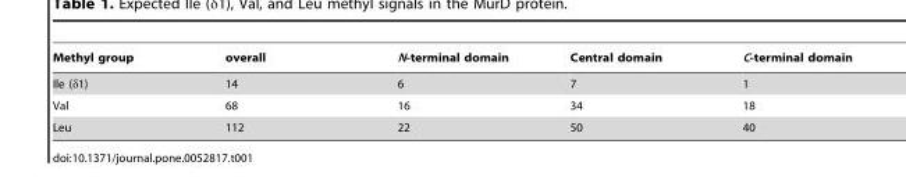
<table><thead><tr><td>Methyl group</td><td>overall</td><td>N-terminal domain</td><td>Central domain</td><td>C-terminal domain</td></tr></thead><tbody><tr><td>Ile (δ1)</td><td>14</td><td>6</td><td>7</td><td>1</td></tr><tr><td>Val</td><td>68</td><td>16</td><td>34</td><td>18</td></tr><tr><td>Leu</td><td>112</td><td>22</td><td>50</td><td>40</td></tr></tbody></table>